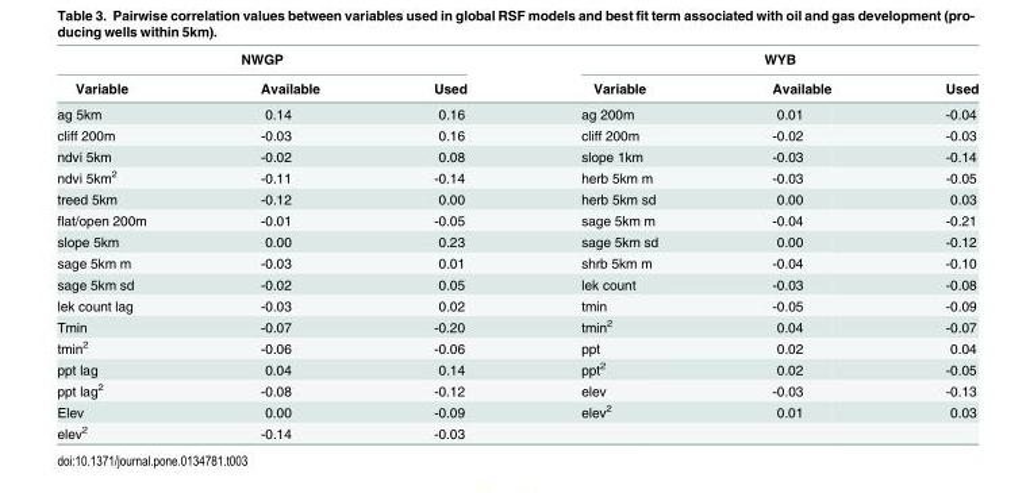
<table><thead><tr><td colspan="3">NWGP</td><td colspan="3">WYB</td></tr><tr><td>Variable</td><td>Available</td><td>Used</td><td>Variable</td><td>Available</td><td>Used</td></tr></thead><tbody><tr><td>ag 5km</td><td>0.14</td><td>0.16</td><td>ag 200m</td><td>0.01</td><td>-0.04</td></tr><tr><td>cliff 200m</td><td>-0.03</td><td>0.16</td><td>cliff 200m</td><td>-0.02</td><td>-0.03</td></tr><tr><td>ndvi 5km</td><td>-0.02</td><td>0.08</td><td>slope 1km</td><td>-0.03</td><td>-0.14</td></tr><tr><td>ndvi 5km<sup>2</sup></td><td>-0.11</td><td>-0.14</td><td>herb 5km m</td><td>-0.03</td><td>-0.05</td></tr><tr><td>treed 5km</td><td>-0.12</td><td>0.00</td><td>herb 5km sd</td><td>0.00</td><td>0.03</td></tr><tr><td>flat/open 200m</td><td>-0.01</td><td>-0.05</td><td>sage 5km m</td><td>-0.04</td><td>-0.21</td></tr><tr><td>slope 5km</td><td>0.00</td><td>0.23</td><td>sage 5km sd</td><td>0.00</td><td>-0.12</td></tr><tr><td>sage 5km m</td><td>-0.03</td><td>0.01</td><td>shrb 5km m</td><td>-0.04</td><td>-0.10</td></tr><tr><td>sage 5km sd</td><td>-0.02</td><td>0.05</td><td>lek count</td><td>-0.03</td><td>-0.08</td></tr><tr><td>lek count lag</td><td>-0.03</td><td>0.02</td><td>tmin</td><td>-0.05</td><td>-0.09</td></tr><tr><td>Tmin</td><td>-0.07</td><td>-0.20</td><td>tmin<sup>2</sup></td><td>0.04</td><td>-0.07</td></tr><tr><td>tmin<sup>2</sup></td><td>-0.06</td><td>-0.06</td><td>ppt</td><td>0.02</td><td>0.04</td></tr><tr><td>ppt lag</td><td>0.04</td><td>0.14</td><td>ppt<sup>2</sup></td><td>0.02</td><td>-0.05</td></tr><tr><td>ppt lag<sup>2</sup></td><td>-0.08</td><td>-0.12</td><td>elev</td><td>-0.03</td><td>-0.13</td></tr><tr><td>Elev</td><td>0.00</td><td>-0.09</td><td>elev<sup>2</sup></td><td>0.01</td><td>0.03</td></tr><tr><td>elev<sup>2</sup></td><td>-0.14</td><td>-0.03</td><td></td><td></td><td></td></tr></tbody></table>